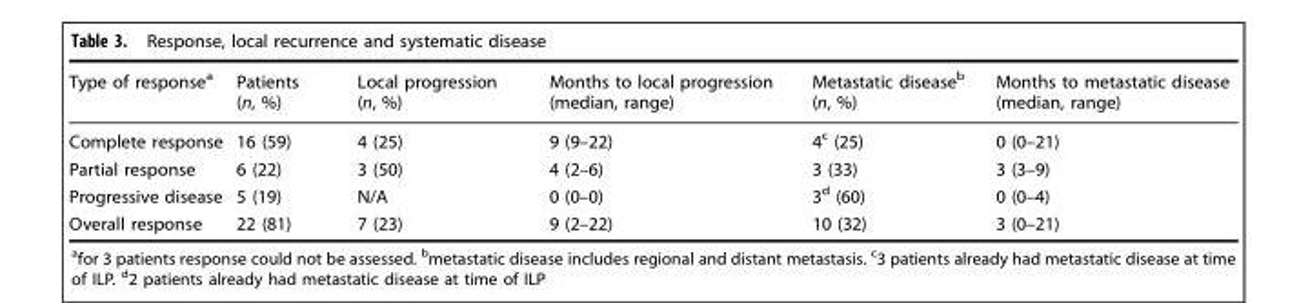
<table><thead><tr><td>Type of response<sup>a</sup></td><td>Patients (n, %)</td><td>Local progression (n, %)</td><td>Months to local progression (median, range)</td><td>Metastatic disease<sup>b</sup> (n, %)</td><td>Months to metastatic disease (median, range)</td></tr></thead><tbody><tr><td>Complete response</td><td>16 (59)</td><td>4 (25)</td><td>9 (9–22)</td><td>4<sup>c</sup> (25)</td><td>0 (0–21)</td></tr><tr><td>Partial response</td><td>6 (22)</td><td>3 (50)</td><td>4 (2–6)</td><td>3 (33)</td><td>3 (3–9)</td></tr><tr><td>Progressive disease</td><td>5 (19)</td><td>N/A</td><td>0 (0–0)</td><td>3<sup>d</sup> (60)</td><td>0 (0–4)</td></tr><tr><td>Overall response</td><td>22 (81)</td><td>7 (23)</td><td>9 (2–22)</td><td>10 (32)</td><td>3 (0–21)</td></tr></tbody></table>